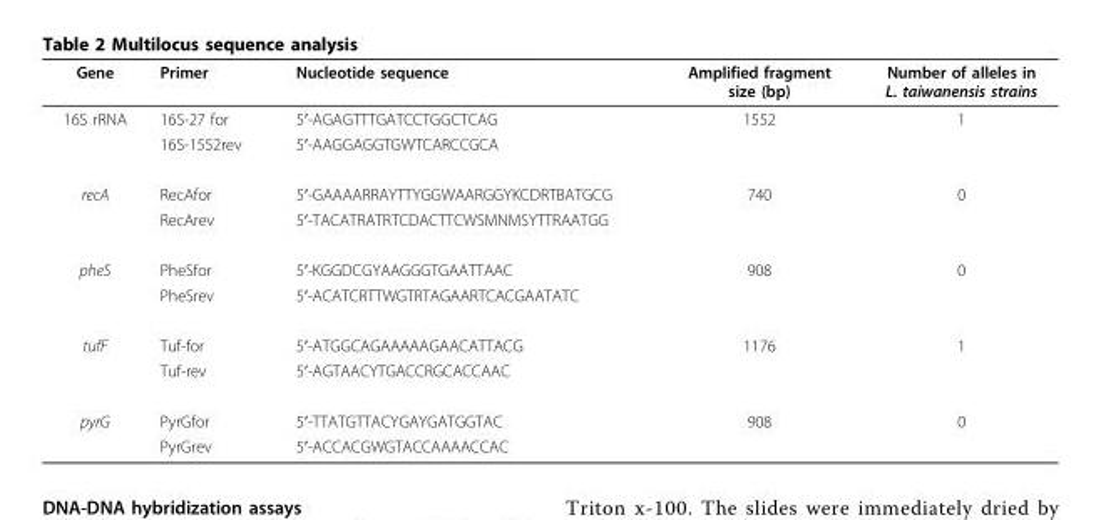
<table><thead><tr><td>Gene</td><td>Primer</td><td>Nucleotide sequence</td><td>Amplified fragment size (bp)</td><td>Number of alleles in L. taiwanensis strains</td></tr></thead><tbody><tr><td rowspan="2">16S rRNA</td><td>16S-27 for</td><td>5′-AGAGTTTGATCCTGGCTCAG</td><td>1552</td><td>1</td></tr><tr><td>16S-1552rev</td><td>5′-AAGGAGGTGWTCARCCGCA</td><td></td><td></td></tr><tr><td rowspan="2">recA</td><td>RecAfor</td><td>5′-GAAAARRAYTTYGGWAARGGYKCDRTBATGCG</td><td>740</td><td>0</td></tr><tr><td>RecArev</td><td>5′-TACATRATRTCDACTTCWSMNMSYTTRAATGG</td><td></td><td></td></tr><tr><td rowspan="2">pheS</td><td>PheSfor</td><td>5′-KGGDCGYAAGGGTGAATTAAC</td><td>908</td><td>0</td></tr><tr><td>PheSrev</td><td>5′-ACATCRTTWGTRTAGAARTCACGAATATC</td><td></td><td></td></tr><tr><td rowspan="2">tufF</td><td>Tuf-for</td><td>5′-ATGGCAGAAAAAGAACATTACG</td><td>1176</td><td>1</td></tr><tr><td>Tuf-rev</td><td>5′-AGTAACYTGACCRGCACCAAC</td><td></td><td></td></tr><tr><td rowspan="2">pyrG</td><td>PyrGfor</td><td>5′-TTATGTTACYGAYGATGGTAC</td><td>908</td><td>0</td></tr><tr><td>PyrGrev</td><td>5′-ACCACGWGTACCAAAACCAC</td><td></td><td></td></tr></tbody></table>